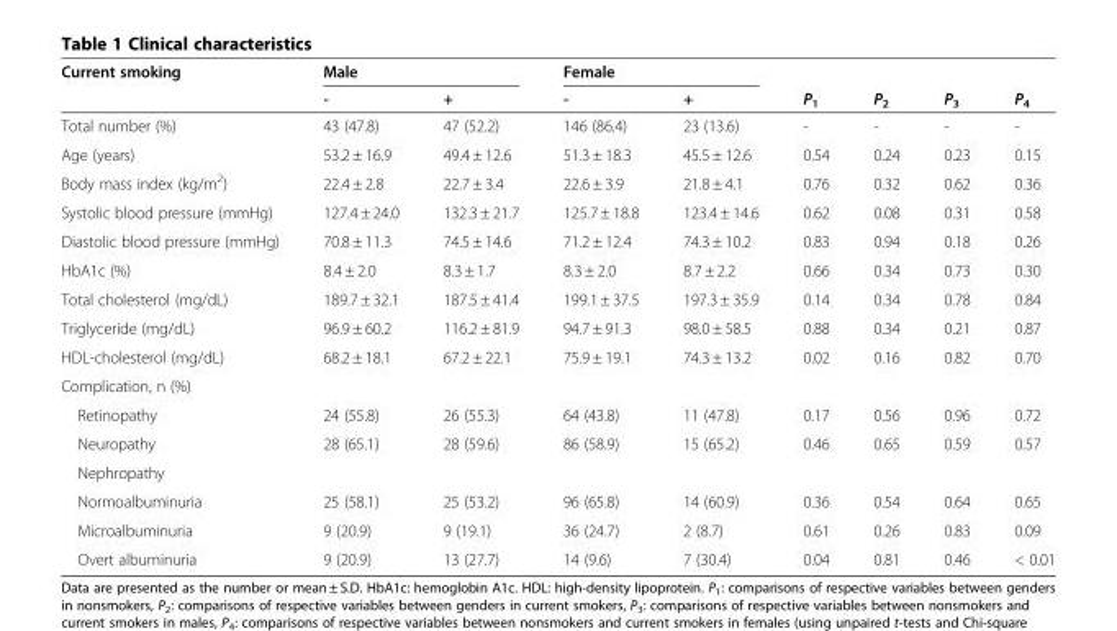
<table><thead><tr><td rowspan="2">Current smoking</td><td colspan="2">Male</td><td colspan="2">Female</td><td rowspan="2">P<sub>1</sub></td><td rowspan="2">P<sub>2</sub></td><td rowspan="2">P<sub>3</sub></td><td rowspan="2">P<sub>4</sub></td></tr><tr><td>-</td><td>+</td><td>-</td><td>+</td></tr></thead><tbody><tr><td>Total number (%)</td><td>43 (47.8)</td><td>47 (52.2)</td><td>146 (86.4)</td><td>23 (13.6)</td><td>-</td><td>-</td><td>-</td><td>-</td></tr><tr><td>Age (years)</td><td>53.2 ± 16.9</td><td>49.4 ± 12.6</td><td>51.3 ± 18.3</td><td>45.5 ± 12.6</td><td>0.54</td><td>0.24</td><td>0.23</td><td>0.15</td></tr><tr><td>Body mass index (kg/m<sup>2</sup>)</td><td>22.4 ± 2.8</td><td>22.7 ± 3.4</td><td>22.6 ± 3.9</td><td>21.8 ± 4.1</td><td>0.76</td><td>0.32</td><td>0.62</td><td>0.36</td></tr><tr><td>Systolic blood pressure (mmHg)</td><td>127.4 ± 24.0</td><td>132.3 ± 21.7</td><td>125.7 ± 18.8</td><td>123.4 ± 14.6</td><td>0.62</td><td>0.08</td><td>0.31</td><td>0.58</td></tr><tr><td>Diastolic blood pressure (mmHg)</td><td>70.8 ± 11.3</td><td>74.5 ± 14.6</td><td>71.2 ± 12.4</td><td>74.3 ± 10.2</td><td>0.83</td><td>0.94</td><td>0.18</td><td>0.26</td></tr><tr><td>HbA1c (%)</td><td>8.4 ± 2.0</td><td>8.3 ± 1.7</td><td>8.3 ± 2.0</td><td>8.7 ± 2.2</td><td>0.66</td><td>0.34</td><td>0.73</td><td>0.30</td></tr><tr><td>Total cholesterol (mg/dL)</td><td>189.7 ± 32.1</td><td>187.5 ± 41.4</td><td>199.1 ± 37.5</td><td>197.3 ± 35.9</td><td>0.14</td><td>0.34</td><td>0.78</td><td>0.84</td></tr><tr><td>Triglyceride (mg/dL)</td><td>96.9 ± 60.2</td><td>116.2 ± 81.9</td><td>94.7 ± 91.3</td><td>98.0 ± 58.5</td><td>0.88</td><td>0.34</td><td>0.21</td><td>0.87</td></tr><tr><td>HDL-cholesterol (mg/dL)</td><td>68.2 ± 18.1</td><td>67.2 ± 22.1</td><td>75.9 ± 19.1</td><td>74.3 ± 13.2</td><td>0.02</td><td>0.16</td><td>0.82</td><td>0.70</td></tr><tr><td colspan="9">Complication, n (%)</td></tr><tr><td>Retinopathy</td><td>24 (55.8)</td><td>26 (55.3)</td><td>64 (43.8)</td><td>11 (47.8)</td><td>0.17</td><td>0.56</td><td>0.96</td><td>0.72</td></tr><tr><td>Neuropathy</td><td>28 (65.1)</td><td>28 (59.6)</td><td>86 (58.9)</td><td>15 (65.2)</td><td>0.46</td><td>0.65</td><td>0.59</td><td>0.57</td></tr><tr><td colspan="9">Nephropathy</td></tr><tr><td>Normoalbuminuria</td><td>25 (58.1)</td><td>25 (53.2)</td><td>96 (65.8)</td><td>14 (60.9)</td><td>0.36</td><td>0.54</td><td>0.64</td><td>0.65</td></tr><tr><td>Microalbuminuria</td><td>9 (20.9)</td><td>9 (19.1)</td><td>36 (24.7)</td><td>2 (8.7)</td><td>0.61</td><td>0.26</td><td>0.83</td><td>0.09</td></tr><tr><td>Overt albuminuria</td><td>9 (20.9)</td><td>13 (27.7)</td><td>14 (9.6)</td><td>7 (30.4)</td><td>0.04</td><td>0.81</td><td>0.46</td><td>&lt; 0.01</td></tr></tbody></table>